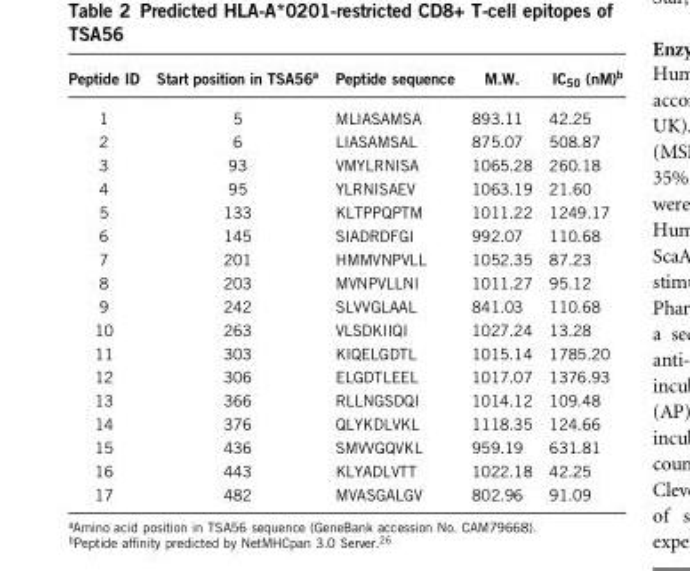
<table><thead><tr><td>Peptide ID</td><td>Start position in TSA56<sup>a</sup></td><td>Peptide sequence</td><td>M.W.</td><td>IC<sub>50</sub> (nM)<sup>b</sup></td></tr></thead><tbody><tr><td>1</td><td>5</td><td>MLIASAMSA</td><td>893.11</td><td>42.25</td></tr><tr><td>2</td><td>6</td><td>LIASAMSAL</td><td>875.07</td><td>508.87</td></tr><tr><td>3</td><td>93</td><td>VMYLRNISA</td><td>1065.28</td><td>260.18</td></tr><tr><td>4</td><td>95</td><td>YLRNISAEV</td><td>1063.19</td><td>21.60</td></tr><tr><td>5</td><td>133</td><td>KLTPPQPTM</td><td>1011.22</td><td>1249.17</td></tr><tr><td>6</td><td>145</td><td>SIADRDFGI</td><td>992.07</td><td>110.68</td></tr><tr><td>7</td><td>201</td><td>HMMVNPVLL</td><td>1052.35</td><td>87.23</td></tr><tr><td>8</td><td>203</td><td>MVNPVLLNI</td><td>1011.27</td><td>95.12</td></tr><tr><td>9</td><td>242</td><td>SLVVGLAAL</td><td>841.03</td><td>110.68</td></tr><tr><td>10</td><td>263</td><td>VLSDKIIQI</td><td>1027.24</td><td>13.28</td></tr><tr><td>11</td><td>303</td><td>KIQELGDTL</td><td>1015.14</td><td>1785.20</td></tr><tr><td>12</td><td>306</td><td>ELGDTLEEL</td><td>1017.07</td><td>1376.93</td></tr><tr><td>13</td><td>366</td><td>RLLNGSDQI</td><td>1014.12</td><td>109.48</td></tr><tr><td>14</td><td>376</td><td>QLYKDLVKL</td><td>1118.35</td><td>124.66</td></tr><tr><td>15</td><td>436</td><td>SMVVGQVKL</td><td>959.19</td><td>631.81</td></tr><tr><td>16</td><td>443</td><td>KLYADLVTT</td><td>1022.18</td><td>42.25</td></tr><tr><td>17</td><td>482</td><td>MVASGALGV</td><td>802.96</td><td>91.09</td></tr></tbody></table>